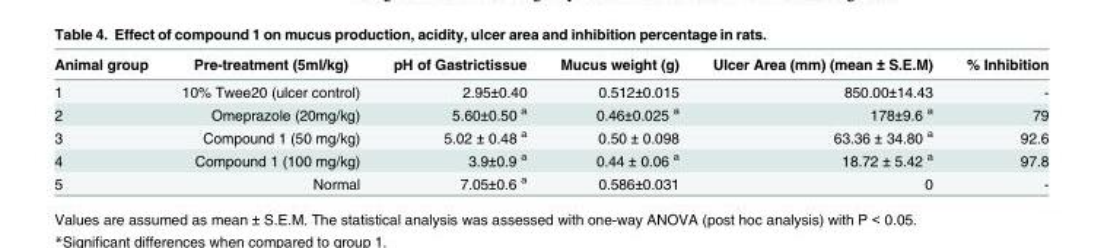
<table><thead><tr><td>Animal group</td><td>Pre-treatment (5ml/kg)</td><td>pH of Gastrictissue</td><td>Mucus weight (g)</td><td>Ulcer Area (mm) (mean ± S.E.M)</td><td>% Inhibition</td></tr></thead><tbody><tr><td>1</td><td>10% Twee20 (ulcer control)</td><td>2.95±0.40</td><td>0.512±0.015</td><td>850.00±14.43</td><td>-</td></tr><tr><td>2</td><td>Omeprazole (20mg/kg)</td><td>5.60±0.50 a</td><td>0.46±0.025 a</td><td>178±9.6 a</td><td>79</td></tr><tr><td>3</td><td>Compound 1 (50 mg/kg)</td><td>5.02 ± 0.48 a</td><td>0.50 ± 0.098</td><td>63.36 ± 34.80 a</td><td>92.6</td></tr><tr><td>4</td><td>Compound 1 (100 mg/kg)</td><td>3.9±0.9 a</td><td>0.44 ± 0.06 a</td><td>18.72 ± 5.42 a</td><td>97.8</td></tr><tr><td>5</td><td>Normal</td><td>7.05±0.6 a</td><td>0.586±0.031</td><td>0</td><td>-</td></tr></tbody></table>